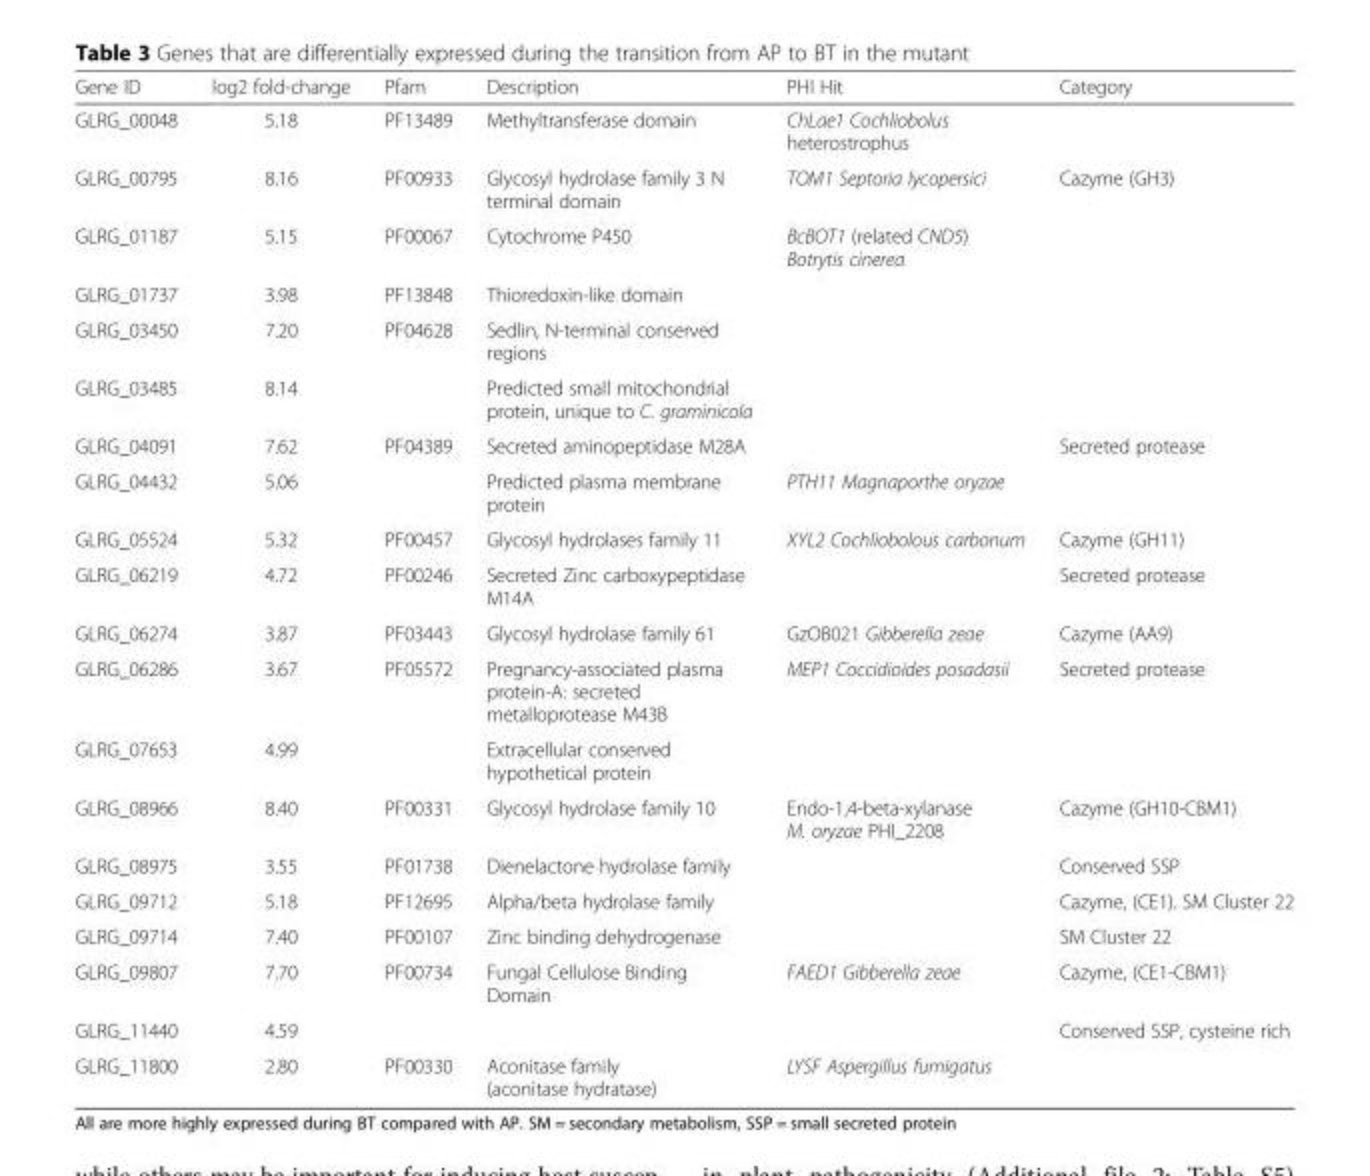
<table><thead><tr><td>Gene ID</td><td>log2 fold-change</td><td>Pfam</td><td>Description</td><td>PHI Hit</td><td>Category</td></tr></thead><tbody><tr><td>GLRG_00048</td><td>5.18</td><td>PF13489</td><td>Methyltransferase domain</td><td>ChLae1 Cochliobolus heterostrophus</td><td></td></tr><tr><td>GLRG_00795</td><td>8.16</td><td>PF00933</td><td>Glycosyl hydrolase family 3 N terminal domain</td><td>TOM1 Septoria lycopersici</td><td>Cazyme (GH3)</td></tr><tr><td>GLRG_01187</td><td>5.15</td><td>PF00067</td><td>Cytochrome P450</td><td>BcBOT1 (related CND5) Botrytis cinerea</td><td></td></tr><tr><td>GLRG_01737</td><td>3.98</td><td>PF13848</td><td>Thioredoxin-like domain</td><td></td><td></td></tr><tr><td>GLRG_03450</td><td>7.20</td><td>PF04628</td><td>Sedlin, N-terminal conserved regions</td><td></td><td></td></tr><tr><td>GLRG_03485</td><td>8.14</td><td></td><td>Predicted small mitochondrial protein, unique to C. graminicola</td><td></td><td></td></tr><tr><td>GLRG_04091</td><td>7.62</td><td>PF04389</td><td>Secreted aminopeptidase M28A</td><td></td><td>Secreted protease</td></tr><tr><td>GLRG_04432</td><td>5.06</td><td></td><td>Predicted plasma membrane protein</td><td>PTH11 Magnaporthe oryzae</td><td></td></tr><tr><td>GLRG_05524</td><td>5.32</td><td>PF00457</td><td>Glycosyl hydrolases family 11</td><td>XYL2 Cochliobolous carbonum</td><td>Cazyme (GH11)</td></tr><tr><td>GLRG_06219</td><td>4.72</td><td>PF00246</td><td>Secreted Zinc carboxypeptidase M14A</td><td></td><td>Secreted protease</td></tr><tr><td>GLRG_06274</td><td>3.87</td><td>PF03443</td><td>Glycosyl hydrolase family 61</td><td>GzOB021 Gibberella zeae</td><td>Cazyme (AA9)</td></tr><tr><td>GLRG_06286</td><td>3.67</td><td>PF05572</td><td>Pregnancy-associated plasma protein-A: secreted metalloprotease M43B</td><td>MEP1 Coccidioides posadasii</td><td>Secreted protease</td></tr><tr><td>GLRG_07653</td><td>4.99</td><td></td><td>Extracellular conserved hypothetical protein</td><td></td><td></td></tr><tr><td>GLRG_08966</td><td>8.40</td><td>PF00331</td><td>Glycosyl hydrolase family 10</td><td>Endo-1,4-beta-xylanase M. oryzae PHI_2208</td><td>Cazyme (GH10-CBM1)</td></tr><tr><td>GLRG_08975</td><td>3.55</td><td>PF01738</td><td>Dienelactone hydrolase family</td><td></td><td>Conserved SSP</td></tr><tr><td>GLRG_09712</td><td>5.18</td><td>PF12695</td><td>Alpha/beta hydrolase family</td><td></td><td>Cazyme, (CE1). SM Cluster 22</td></tr><tr><td>GLRG_09714</td><td>7.40</td><td>PF00107</td><td>Zinc binding dehydrogenase</td><td></td><td>SM Cluster 22</td></tr><tr><td>GLRG_09807</td><td>7.70</td><td>PF00734</td><td>Fungal Cellulose Binding Domain</td><td>FAED1 Gibberella zeae</td><td>Cazyme, (CE1-CBM1)</td></tr><tr><td>GLRG_11440</td><td>4.59</td><td></td><td></td><td></td><td>Conserved SSP, cysteine rich</td></tr><tr><td>GLRG_11800</td><td>2.80</td><td>PF00330</td><td>Aconitase family (aconitase hydratase)</td><td>LYSF Aspergillus fumigatus</td><td></td></tr></tbody></table>